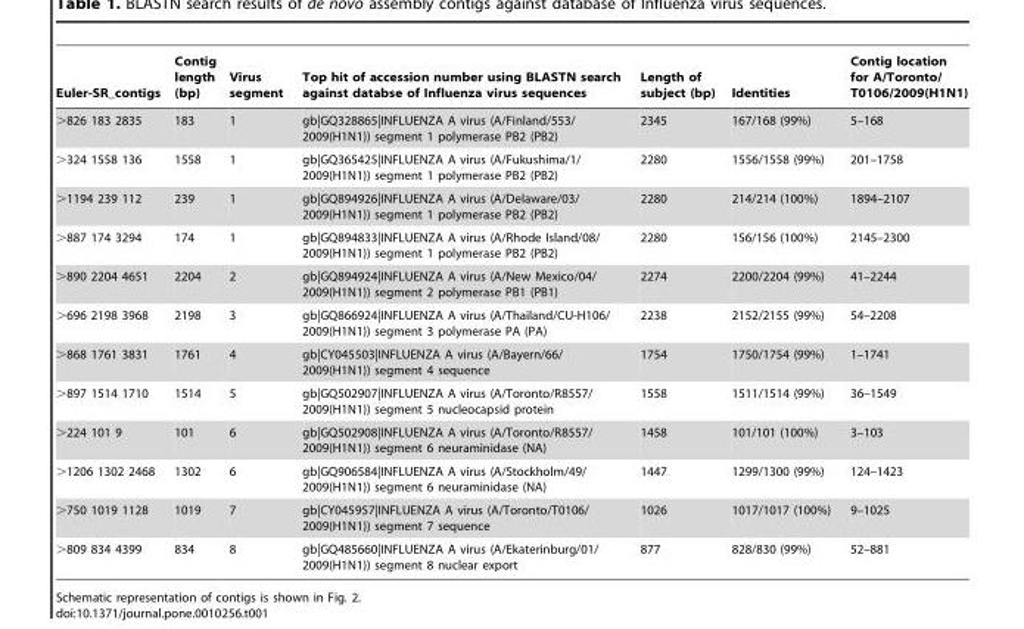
<table><thead><tr><td>Euler-SR_contigs</td><td>Contig length (bp)</td><td>Virus segment</td><td>Top hit of accession number using BLASTN search against databse of Influenza virus sequences</td><td>Length of subject (bp)</td><td>Identities</td><td>Contig location for A/Toronto/ T0106/2009(H1N1)</td></tr></thead><tbody><tr><td>&gt;826 183 2835</td><td>183</td><td>1</td><td>gb|GQ328865|INFLUENZA A virus (A/Finland/553/ 2009(H1N1)) segment 1 polymerase PB2 (PB2)</td><td>2345</td><td>167/168 (99%)</td><td>5–168</td></tr><tr><td>&gt;324 1558 136</td><td>1558</td><td>1</td><td>gb|GQ365425|INFLUENZA A virus (A/Fukushima/1/ 2009(H1N1)) segment 1 polymerase PB2 (PB2)</td><td>2280</td><td>1556/1558 (99%)</td><td>201–1758</td></tr><tr><td>&gt;1194 239 112</td><td>239</td><td>1</td><td>gb|GQ894926|INFLUENZA A virus (A/Delaware/03/ 2009(H1N1)) segment 1 polymerase PB2 (PB2)</td><td>2280</td><td>214/214 (100%)</td><td>1894–2107</td></tr><tr><td>&gt;887 174 3294</td><td>174</td><td>1</td><td>gb|GQ894833|INFLUENZA A virus (A/Rhode Island/08/ 2009(H1N1)) segment 1 polymerase PB2 (PB2)</td><td>2280</td><td>156/156 (100%)</td><td>2145–2300</td></tr><tr><td>&gt;890 2204 4651</td><td>2204</td><td>2</td><td>gb|GQ894924|INFLUENZA A virus (A/New Mexico/04/ 2009(H1N1)) segment 2 polymerase PB1 (PB1)</td><td>2274</td><td>2200/2204 (99%)</td><td>41–2244</td></tr><tr><td>&gt;696 2198 3968</td><td>2198</td><td>3</td><td>gb|GQ866924|INFLUENZA A virus (A/Thailand/CU-H106/ 2009(H1N1)) segment 3 polymerase PA (PA)</td><td>2238</td><td>2152/2155 (99%)</td><td>54–2208</td></tr><tr><td>&gt;868 1761 3831</td><td>1761</td><td>4</td><td>gb|CY045503|INFLUENZA A virus (A/Bayern/66/ 2009(H1N1)) segment 4 sequence</td><td>1754</td><td>1750/1754 (99%)</td><td>1–1741</td></tr><tr><td>&gt;897 1514 1710</td><td>1514</td><td>5</td><td>gb|GQ502907|INFLUENZA A virus (A/Toronto/R8557/ 2009(H1N1)) segment 5 nucleocapsid protein</td><td>1558</td><td>1511/1514 (99%)</td><td>36–1549</td></tr><tr><td>&gt;224 101 9</td><td>101</td><td>6</td><td>gb|GQ502908|INFLUENZA A virus (A/Toronto/R8557/ 2009(H1N1)) segment 6 neuraminidase (NA)</td><td>1458</td><td>101/101 (100%)</td><td>3–103</td></tr><tr><td>&gt;1206 1302 2468</td><td>1302</td><td>6</td><td>gb|GQ906584|INFLUENZA A virus (A/Stockholm/49/ 2009(H1N1)) segment 6 neuraminidase (NA)</td><td>1447</td><td>1299/1300 (99%)</td><td>124–1423</td></tr><tr><td>&gt;750 1019 1128</td><td>1019</td><td>7</td><td>gb|CY045957|INFLUENZA A virus (A/Toronto/T0106/ 2009(H1N1)) segment 7 sequence</td><td>1026</td><td>1017/1017 (100%)</td><td>9–1025</td></tr><tr><td>&gt;809 834 4399</td><td>834</td><td>8</td><td>gb|GQ485660|INFLUENZA A virus (A/Ekaterinburg/01/ 2009(H1N1)) segment 8 nuclear export</td><td>877</td><td>828/830 (99%)</td><td>52–881</td></tr></tbody></table>